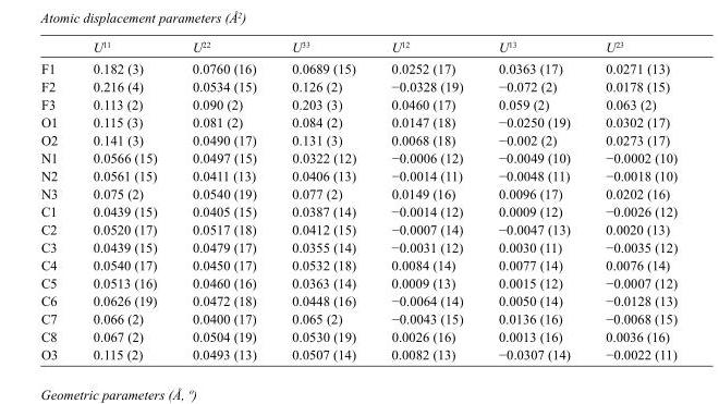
<table><thead><tr><td></td><td>U<sup>11</sup></td><td>U<sup>22</sup></td><td>U<sup>33</sup></td><td>U<sup>12</sup></td><td>U<sup>13</sup></td><td>U<sup>23</sup></td></tr></thead><tbody><tr><td>F1</td><td>0.182 (3)</td><td>0.0760 (16)</td><td>0.0689 (15)</td><td>0.0252 (17)</td><td>0.0363 (17)</td><td>0.0271 (13)</td></tr><tr><td>F2</td><td>0.216 (4)</td><td>0.0534 (15)</td><td>0.126 (2)</td><td>−0.0328 (19)</td><td>−0.072 (2)</td><td>0.0178 (15)</td></tr><tr><td>F3</td><td>0.113 (2)</td><td>0.090 (2)</td><td>0.203 (3)</td><td>0.0460 (17)</td><td>0.059 (2)</td><td>0.063 (2)</td></tr><tr><td>O1</td><td>0.115 (3)</td><td>0.081 (2)</td><td>0.084 (2)</td><td>0.0147 (18)</td><td>−0.0250 (19)</td><td>0.0302 (17)</td></tr><tr><td>O2</td><td>0.141 (3)</td><td>0.0490 (17)</td><td>0.131 (3)</td><td>0.0068 (18)</td><td>−0.002 (2)</td><td>0.0273 (17)</td></tr><tr><td>N1</td><td>0.0566 (15)</td><td>0.0497 (15)</td><td>0.0322 (12)</td><td>−0.0006 (12)</td><td>−0.0049 (10)</td><td>−0.0002 (10)</td></tr><tr><td>N2</td><td>0.0561 (15)</td><td>0.0411 (13)</td><td>0.0406 (13)</td><td>−0.0014 (11)</td><td>−0.0048 (11)</td><td>−0.0018 (10)</td></tr><tr><td>N3</td><td>0.075 (2)</td><td>0.0540 (19)</td><td>0.077 (2)</td><td>0.0149 (16)</td><td>0.0096 (17)</td><td>0.0202 (16)</td></tr><tr><td>C1</td><td>0.0439 (15)</td><td>0.0405 (15)</td><td>0.0387 (14)</td><td>−0.0014 (12)</td><td>0.0009 (12)</td><td>−0.0026 (12)</td></tr><tr><td>C2</td><td>0.0520 (17)</td><td>0.0517 (18)</td><td>0.0412 (15)</td><td>−0.0007 (14)</td><td>−0.0047 (13)</td><td>0.0020 (13)</td></tr><tr><td>C3</td><td>0.0439 (15)</td><td>0.0479 (17)</td><td>0.0355 (14)</td><td>−0.0031 (12)</td><td>0.0030 (11)</td><td>−0.0035 (12)</td></tr><tr><td>C4</td><td>0.0540 (17)</td><td>0.0450 (17)</td><td>0.0532 (18)</td><td>0.0084 (14)</td><td>0.0077 (14)</td><td>0.0076 (14)</td></tr><tr><td>C5</td><td>0.0513 (16)</td><td>0.0460 (16)</td><td>0.0363 (14)</td><td>0.0009 (13)</td><td>0.0015 (12)</td><td>−0.0007 (12)</td></tr><tr><td>C6</td><td>0.0626 (19)</td><td>0.0472 (18)</td><td>0.0448 (16)</td><td>−0.0064 (14)</td><td>0.0050 (14)</td><td>−0.0128 (13)</td></tr><tr><td>C7</td><td>0.066 (2)</td><td>0.0400 (17)</td><td>0.065 (2)</td><td>−0.0043 (15)</td><td>0.0136 (16)</td><td>−0.0068 (15)</td></tr><tr><td>C8</td><td>0.067 (2)</td><td>0.0504 (19)</td><td>0.0530 (19)</td><td>0.0026 (16)</td><td>0.0013 (16)</td><td>0.0036 (16)</td></tr><tr><td>O3</td><td>0.115 (2)</td><td>0.0493 (13)</td><td>0.0507 (14)</td><td>0.0082 (13)</td><td>−0.0307 (14)</td><td>−0.0022 (11)</td></tr></tbody></table>